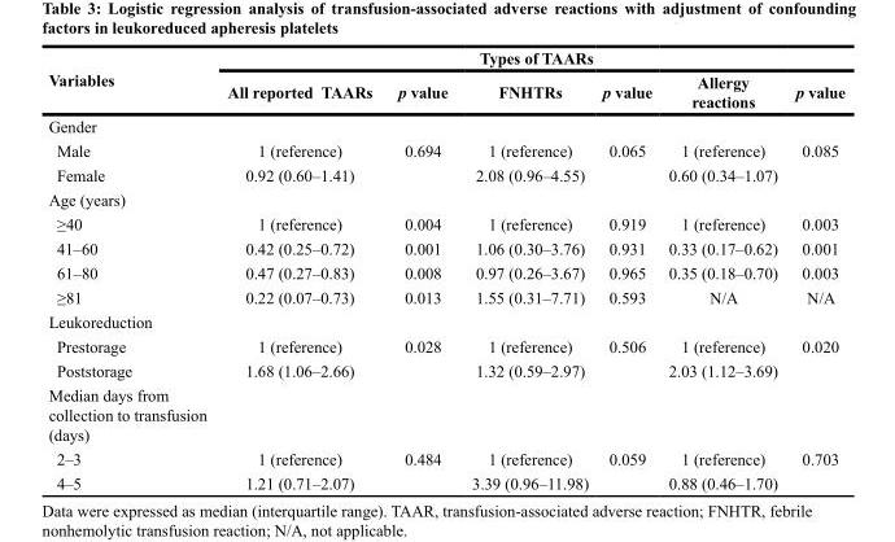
<table><thead><tr><td rowspan="2">Variables</td><td colspan="6">Types of TAARs</td></tr><tr><td>All reported TAARs</td><td>p value</td><td>FNHTRs</td><td>p value</td><td>Allergy reactions</td><td>p value</td></tr></thead><tbody><tr><td colspan="7">Gender</td></tr><tr><td>Male</td><td>1 (reference)</td><td>0.694</td><td>1 (reference)</td><td>0.065</td><td>1 (reference)</td><td>0.085</td></tr><tr><td>Female</td><td>0.92 (0.60–1.41)</td><td></td><td>2.08 (0.96–4.55)</td><td></td><td>0.60 (0.34–1.07)</td><td></td></tr><tr><td colspan="7">Age (years)</td></tr><tr><td>≥40</td><td>1 (reference)</td><td>0.004</td><td>1 (reference)</td><td>0.919</td><td>1 (reference)</td><td>0.003</td></tr><tr><td>41–60</td><td>0.42 (0.25–0.72)</td><td>0.001</td><td>1.06 (0.30–3.76)</td><td>0.931</td><td>0.33 (0.17–0.62)</td><td>0.001</td></tr><tr><td>61–80</td><td>0.47 (0.27–0.83)</td><td>0.008</td><td>0.97 (0.26–3.67)</td><td>0.965</td><td>0.35 (0.18–0.70)</td><td>0.003</td></tr><tr><td>≥81</td><td>0.22 (0.07–0.73)</td><td>0.013</td><td>1.55 (0.31–7.71)</td><td>0.593</td><td>N/A</td><td>N/A</td></tr><tr><td colspan="7">Leukoreduction</td></tr><tr><td>Prestorage</td><td>1 (reference)</td><td>0.028</td><td>1 (reference)</td><td>0.506</td><td>1 (reference)</td><td>0.020</td></tr><tr><td>Poststorage</td><td>1.68 (1.06–2.66)</td><td></td><td>1.32 (0.59–2.97)</td><td></td><td>2.03 (1.12–3.69)</td><td></td></tr><tr><td colspan="7">Median days from collection to transfusion (days)</td></tr><tr><td>2–3</td><td>1 (reference)</td><td>0.484</td><td>1 (reference)</td><td>0.059</td><td>1 (reference)</td><td>0.703</td></tr><tr><td>4–5</td><td>1.21 (0.71–2.07)</td><td></td><td>3.39 (0.96–11.98)</td><td></td><td>0.88 (0.46–1.70)</td><td></td></tr></tbody></table>